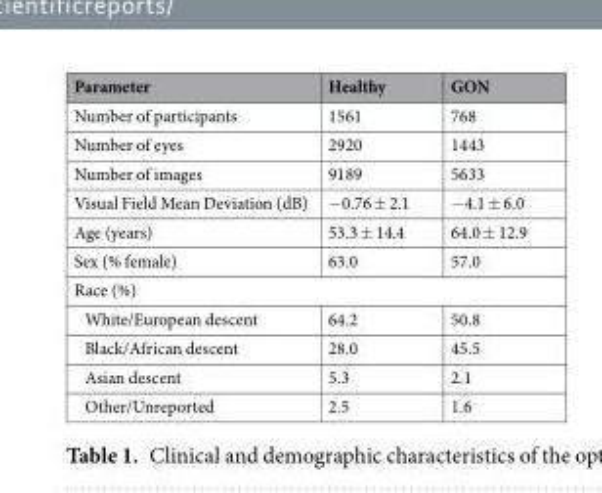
<table><thead><tr><td>Parameter</td><td>Healthy</td><td>GON</td></tr></thead><tbody><tr><td>Number of participants</td><td>1561</td><td>768</td></tr><tr><td>Number of eyes</td><td>2920</td><td>1443</td></tr><tr><td>Number of images</td><td>9189</td><td>5633</td></tr><tr><td>Visual Field Mean Deviation (dB)</td><td>−0.76 ± 2.1</td><td>−4.1 ± 6.0</td></tr><tr><td>Age (years)</td><td>53.3 ± 14.4</td><td>64.0 ± 12.9</td></tr><tr><td>Sex (% female)</td><td>63.0</td><td>57.0</td></tr><tr><td colspan="3">Race (%)</td></tr><tr><td>White/European descent</td><td>64.2</td><td>50.8</td></tr><tr><td>Black/African descent</td><td>28.0</td><td>45.5</td></tr><tr><td>Asian descent</td><td>5.3</td><td>2.1</td></tr><tr><td>Other/Unreported</td><td>2.5</td><td>1.6</td></tr></tbody></table>